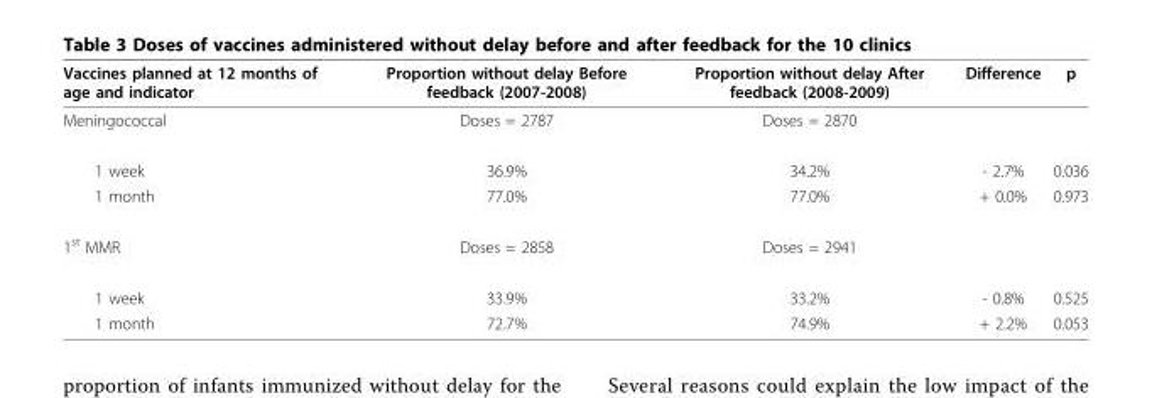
<table><thead><tr><td>Vaccines planned at 12 months of age and indicator</td><td>Proportion without delay Before feedback (2007-2008)</td><td>Proportion without delay After feedback (2008-2009)</td><td>Difference</td><td>p</td></tr></thead><tbody><tr><td>Meningococcal</td><td>Doses = 2787</td><td>Doses = 2870</td><td></td><td></td></tr><tr><td>1 week</td><td>36.9%</td><td>34.2%</td><td>- 2.7%</td><td>0.036</td></tr><tr><td>1 month</td><td>77.0%</td><td>77.0%</td><td>+ 0.0%</td><td>0.973</td></tr><tr><td>1<sup>st</sup> MMR</td><td>Doses = 2858</td><td>Doses = 2941</td><td></td><td></td></tr><tr><td>1 week</td><td>33.9%</td><td>33.2%</td><td>- 0.8%</td><td>0.525</td></tr><tr><td>1 month</td><td>72.7%</td><td>74.9%</td><td>+ 2.2%</td><td>0.053</td></tr></tbody></table>